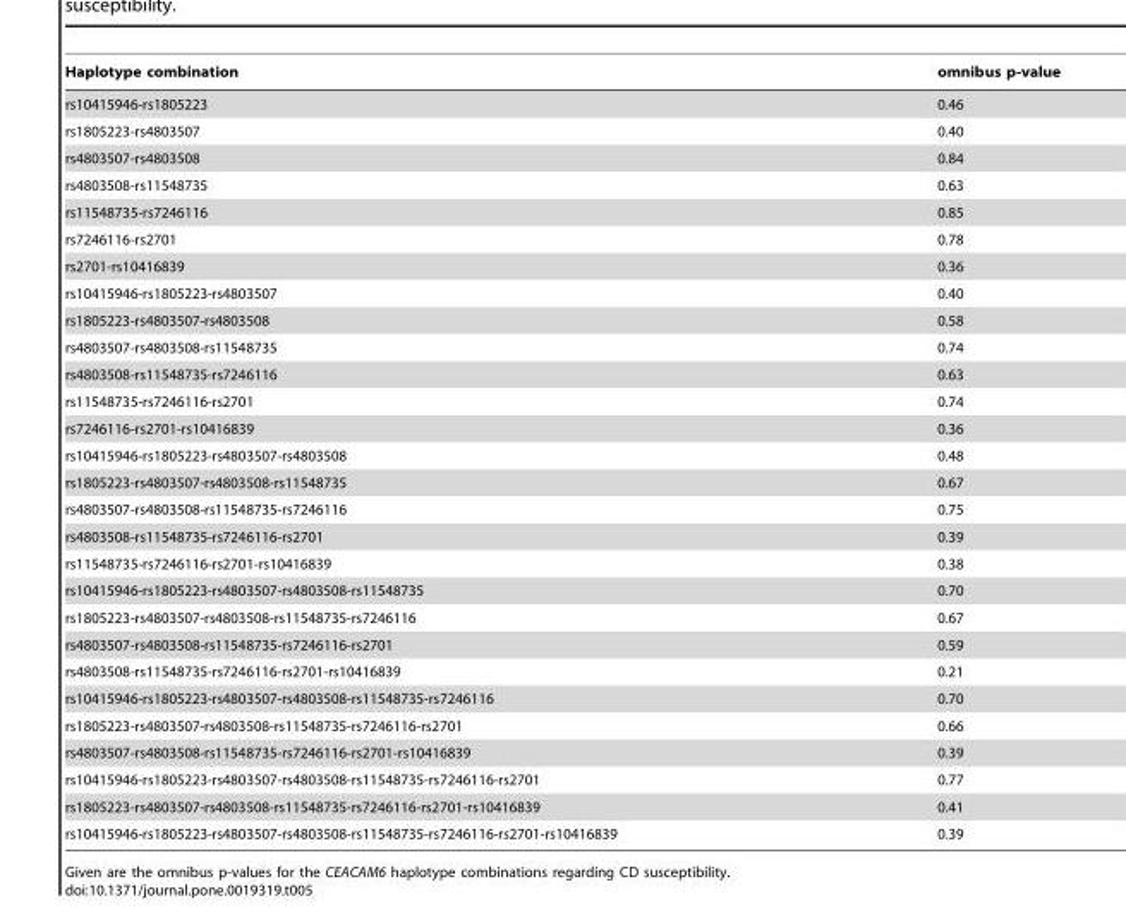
<table><thead><tr><td>Haplotype combination</td><td>omnibus p-value</td></tr></thead><tbody><tr><td>rs10415946-rs1805223</td><td>0.46</td></tr><tr><td>rs1805223-rs4803507</td><td>0.40</td></tr><tr><td>rs4803507-rs4803508</td><td>0.84</td></tr><tr><td>rs4803508-rs11548735</td><td>0.63</td></tr><tr><td>rs11548735-rs7246116</td><td>0.85</td></tr><tr><td>rs7246116-rs2701</td><td>0.78</td></tr><tr><td>rs2701-rs10416839</td><td>0.36</td></tr><tr><td>rs10415946-rs1805223-rs4803507</td><td>0.40</td></tr><tr><td>rs1805223-rs4803507-rs4803508</td><td>0.58</td></tr><tr><td>rs4803507-rs4803508-rs11548735</td><td>0.74</td></tr><tr><td>rs4803508-rs11548735-rs7246116</td><td>0.63</td></tr><tr><td>rs11548735-rs7246116-rs2701</td><td>0.74</td></tr><tr><td>rs7246116-rs2701-rs10416839</td><td>0.36</td></tr><tr><td>rs10415946-rs1805223-rs4803507-rs4803508</td><td>0.48</td></tr><tr><td>rs1805223-rs4803507-rs4803508-rs11548735</td><td>0.67</td></tr><tr><td>rs4803507-rs4803508-rs11548735-rs7246116</td><td>0.75</td></tr><tr><td>rs4803508-rs11548735-rs7246116-rs2701</td><td>0.39</td></tr><tr><td>rs11548735-rs7246116-rs2701-rs10416839</td><td>0.38</td></tr><tr><td>rs10415946-rs1805223-rs4803507-rs4803508-rs11548735</td><td>0.70</td></tr><tr><td>rs1805223-rs4803507-rs4803508-rs11548735-rs7246116</td><td>0.67</td></tr><tr><td>rs4803507-rs4803508-rs11548735-rs7246116-rs2701</td><td>0.59</td></tr><tr><td>rs4803508-rs11548735-rs7246116-rs2701-rs10416839</td><td>0.21</td></tr><tr><td>rs10415946-rs1805223-rs4803507-rs4803508-rs11548735-rs7246116</td><td>0.70</td></tr><tr><td>rs1805223-rs4803507-rs4803508-rs11548735-rs7246116-rs2701</td><td>0.66</td></tr><tr><td>rs4803507-rs4803508-rs11548735-rs7246116-rs2701-rs10416839</td><td>0.39</td></tr><tr><td>rs10415946-rs1805223-rs4803507-rs4803508-rs11548735-rs7246116-rs2701</td><td>0.77</td></tr><tr><td>rs1805223-rs4803507-rs4803508-rs11548735-rs7246116-rs2701-rs10416839</td><td>0.41</td></tr><tr><td>rs10415946-rs1805223-rs4803507-rs4803508-rs11548735-rs7246116-rs2701-rs10416839</td><td>0.39</td></tr></tbody></table>